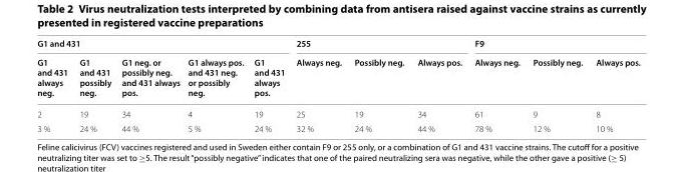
<table><thead><tr><td colspan="5">G1 and 431</td><td colspan="3">255</td><td colspan="3">F9</td></tr><tr><td>G1 and 431 always neg.</td><td>G1 and 431 possibly neg.</td><td>G1 neg. or possibly neg. and 431 always pos.</td><td>G1 always pos. and 431 neg. or possibly neg.</td><td>G1 and 431 always pos.</td><td>Always neg.</td><td>Possibly neg.</td><td>Always pos.</td><td>Always neg.</td><td>Possibly neg.</td><td>Always pos.</td></tr></thead><tbody><tr><td>2</td><td>19</td><td>34</td><td>4</td><td>19</td><td>25</td><td>19</td><td>34</td><td>61</td><td>9</td><td>8</td></tr><tr><td>3 %</td><td>24 %</td><td>44 %</td><td>5 %</td><td>24 %</td><td>32 %</td><td>24 %</td><td>44 %</td><td>78 %</td><td>12 %</td><td>10 %</td></tr></tbody></table>